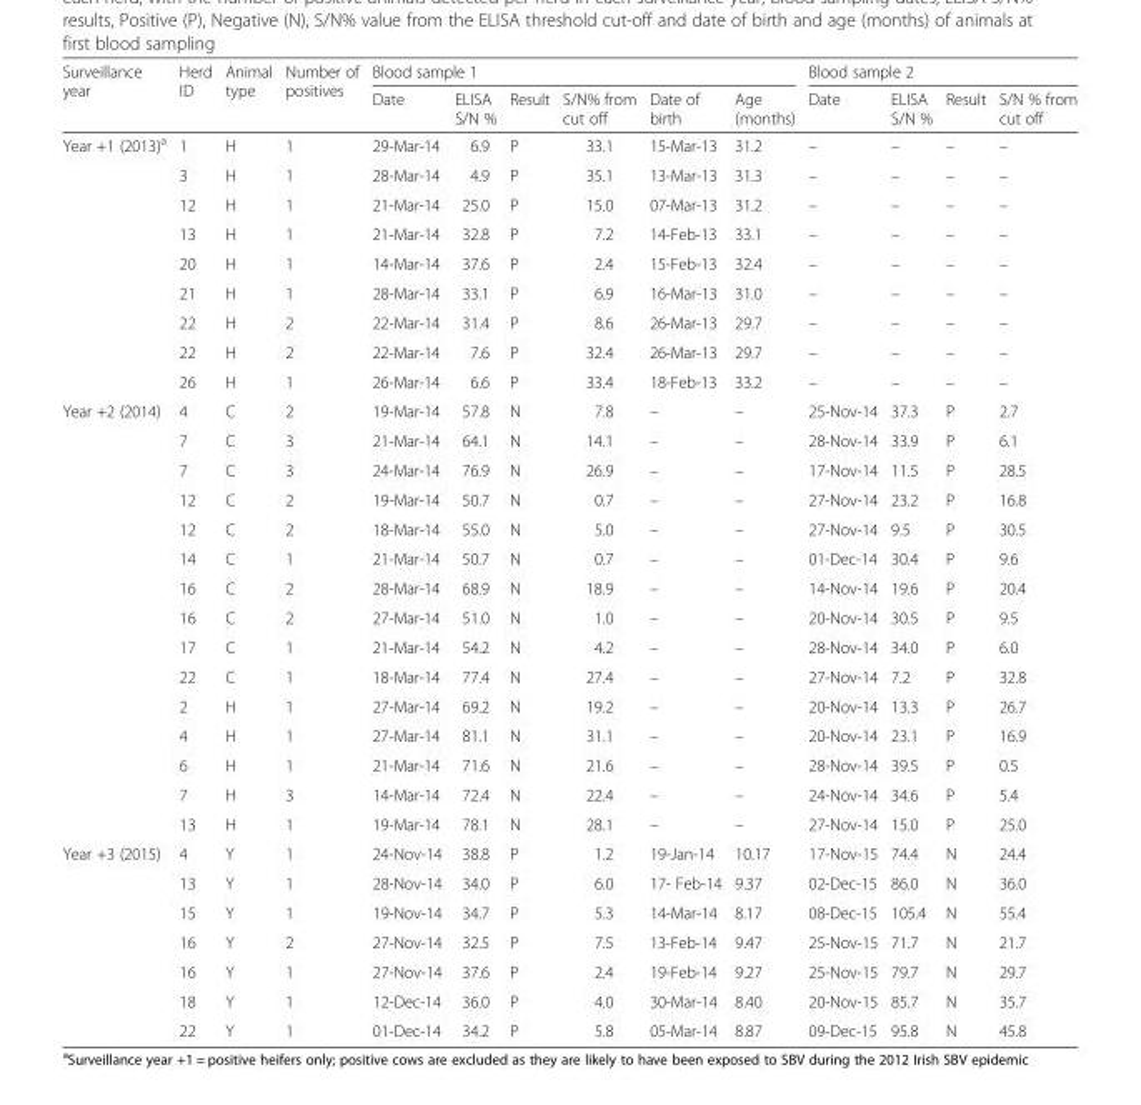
<table><thead><tr><td rowspan="2">Surveillance year</td><td rowspan="2">Herd ID</td><td rowspan="2">Animal type</td><td rowspan="2">Number of positives</td><td colspan="6">Blood sample 1</td><td colspan="4">Blood sample 2</td></tr><tr><td>Date</td><td>ELISA S/N %</td><td>Result</td><td>S/N% from cut off</td><td>Date of birth</td><td>Age (months)</td><td>Date</td><td>ELISA S/N %</td><td>Result</td><td>S/N % from cut off</td></tr></thead><tbody><tr><td rowspan="9">Year +1 (2013)<sup>a</sup></td><td>1</td><td>H</td><td>1</td><td>29-Mar-14</td><td>6.9</td><td>P</td><td>33.1</td><td>15-Mar-13</td><td>31.2</td><td>–</td><td>–</td><td>–</td><td>–</td></tr><tr><td>3</td><td>H</td><td>1</td><td>28-Mar-14</td><td>4.9</td><td>P</td><td>35.1</td><td>13-Mar-13</td><td>31.3</td><td>–</td><td>–</td><td>–</td><td>–</td></tr><tr><td>12</td><td>H</td><td>1</td><td>21-Mar-14</td><td>25.0</td><td>P</td><td>15.0</td><td>07-Mar-13</td><td>31.2</td><td>–</td><td>–</td><td>–</td><td>–</td></tr><tr><td>13</td><td>H</td><td>1</td><td>21-Mar-14</td><td>32.8</td><td>P</td><td>7.2</td><td>14-Feb-13</td><td>33.1</td><td>–</td><td>–</td><td>–</td><td>–</td></tr><tr><td>20</td><td>H</td><td>1</td><td>14-Mar-14</td><td>37.6</td><td>P</td><td>2.4</td><td>15-Feb-13</td><td>32.4</td><td>–</td><td>–</td><td>–</td><td>–</td></tr><tr><td>21</td><td>H</td><td>1</td><td>28-Mar-14</td><td>33.1</td><td>P</td><td>6.9</td><td>16-Mar-13</td><td>31.0</td><td>–</td><td>–</td><td>–</td><td>–</td></tr><tr><td>22</td><td>H</td><td>2</td><td>22-Mar-14</td><td>31.4</td><td>P</td><td>8.6</td><td>26-Mar-13</td><td>29.7</td><td>–</td><td>–</td><td>–</td><td>–</td></tr><tr><td>22</td><td>H</td><td>2</td><td>22-Mar-14</td><td>7.6</td><td>P</td><td>32.4</td><td>26-Mar-13</td><td>29.7</td><td>–</td><td>–</td><td>–</td><td>–</td></tr><tr><td>26</td><td>H</td><td>1</td><td>26-Mar-14</td><td>6.6</td><td>P</td><td>33.4</td><td>18-Feb-13</td><td>33.2</td><td>–</td><td>–</td><td>–</td><td>–</td></tr><tr><td rowspan="15">Year +2 (2014)</td><td>4</td><td>C</td><td>2</td><td>19-Mar-14</td><td>57.8</td><td>N</td><td>7.8</td><td>–</td><td>–</td><td>25-Nov-14</td><td>37.3</td><td>P</td><td>2.7</td></tr><tr><td>7</td><td>C</td><td>3</td><td>21-Mar-14</td><td>64.1</td><td>N</td><td>14.1</td><td>–</td><td>–</td><td>28-Nov-14</td><td>33.9</td><td>P</td><td>6.1</td></tr><tr><td>7</td><td>C</td><td>3</td><td>24-Mar-14</td><td>76.9</td><td>N</td><td>26.9</td><td>–</td><td>–</td><td>17-Nov-14</td><td>11.5</td><td>P</td><td>28.5</td></tr><tr><td>12</td><td>C</td><td>2</td><td>19-Mar-14</td><td>50.7</td><td>N</td><td>0.7</td><td>–</td><td>–</td><td>27-Nov-14</td><td>23.2</td><td>P</td><td>16.8</td></tr><tr><td>12</td><td>C</td><td>2</td><td>18-Mar-14</td><td>55.0</td><td>N</td><td>5.0</td><td>–</td><td>–</td><td>27-Nov-14</td><td>9.5</td><td>P</td><td>30.5</td></tr><tr><td>14</td><td>C</td><td>1</td><td>21-Mar-14</td><td>50.7</td><td>N</td><td>0.7</td><td>–</td><td>–</td><td>01-Dec-14</td><td>30.4</td><td>P</td><td>9.6</td></tr><tr><td>16</td><td>C</td><td>2</td><td>28-Mar-14</td><td>68.9</td><td>N</td><td>18.9</td><td>–</td><td>–</td><td>14-Nov-14</td><td>19.6</td><td>P</td><td>20.4</td></tr><tr><td>16</td><td>C</td><td>2</td><td>27-Mar-14</td><td>51.0</td><td>N</td><td>1.0</td><td>–</td><td>–</td><td>20-Nov-14</td><td>30.5</td><td>P</td><td>9.5</td></tr><tr><td>17</td><td>C</td><td>1</td><td>21-Mar-14</td><td>54.2</td><td>N</td><td>4.2</td><td>–</td><td>–</td><td>28-Nov-14</td><td>34.0</td><td>P</td><td>6.0</td></tr><tr><td>22</td><td>C</td><td>1</td><td>18-Mar-14</td><td>77.4</td><td>N</td><td>27.4</td><td>–</td><td>–</td><td>27-Nov-14</td><td>7.2</td><td>P</td><td>32.8</td></tr><tr><td>2</td><td>H</td><td>1</td><td>27-Mar-14</td><td>69.2</td><td>N</td><td>19.2</td><td>–</td><td>–</td><td>20-Nov-14</td><td>13.3</td><td>P</td><td>26.7</td></tr><tr><td>4</td><td>H</td><td>1</td><td>27-Mar-14</td><td>81.1</td><td>N</td><td>31.1</td><td>–</td><td>–</td><td>20-Nov-14</td><td>23.1</td><td>P</td><td>16.9</td></tr><tr><td>6</td><td>H</td><td>1</td><td>21-Mar-14</td><td>71.6</td><td>N</td><td>21.6</td><td>–</td><td>–</td><td>28-Nov-14</td><td>39.5</td><td>P</td><td>0.5</td></tr><tr><td>7</td><td>H</td><td>3</td><td>14-Mar-14</td><td>72.4</td><td>N</td><td>22.4</td><td>–</td><td>–</td><td>24-Nov-14</td><td>34.6</td><td>P</td><td>5.4</td></tr><tr><td>13</td><td>H</td><td>1</td><td>19-Mar-14</td><td>78.1</td><td>N</td><td>28.1</td><td>–</td><td>–</td><td>27-Nov-14</td><td>15.0</td><td>P</td><td>25.0</td></tr><tr><td rowspan="7">Year +3 (2015)</td><td>4</td><td>Y</td><td>1</td><td>24-Nov-14</td><td>38.8</td><td>P</td><td>1.2</td><td>19-Jan-14</td><td>10.17</td><td>17-Nov-15</td><td>74.4</td><td>N</td><td>24.4</td></tr><tr><td>13</td><td>Y</td><td>1</td><td>28-Nov-14</td><td>34.0</td><td>P</td><td>6.0</td><td>17- Feb-14</td><td>9.37</td><td>02-Dec-15</td><td>86.0</td><td>N</td><td>36.0</td></tr><tr><td>15</td><td>Y</td><td>1</td><td>19-Nov-14</td><td>34.7</td><td>P</td><td>5.3</td><td>14-Mar-14</td><td>8.17</td><td>08-Dec-15</td><td>105.4</td><td>N</td><td>55.4</td></tr><tr><td>16</td><td>Y</td><td>2</td><td>27-Nov-14</td><td>32.5</td><td>P</td><td>7.5</td><td>13-Feb-14</td><td>9.47</td><td>25-Nov-15</td><td>71.7</td><td>N</td><td>21.7</td></tr><tr><td>16</td><td>Y</td><td>1</td><td>27-Nov-14</td><td>37.6</td><td>P</td><td>2.4</td><td>19-Feb-14</td><td>9.27</td><td>25-Nov-15</td><td>79.7</td><td>N</td><td>29.7</td></tr><tr><td>18</td><td>Y</td><td>1</td><td>12-Dec-14</td><td>36.0</td><td>P</td><td>4.0</td><td>30-Mar-14</td><td>8.40</td><td>20-Nov-15</td><td>85.7</td><td>N</td><td>35.7</td></tr><tr><td>22</td><td>Y</td><td>1</td><td>01-Dec-14</td><td>34.2</td><td>P</td><td>5.8</td><td>05-Mar-14</td><td>8.87</td><td>09-Dec-15</td><td>95.8</td><td>N</td><td>45.8</td></tr></tbody></table>